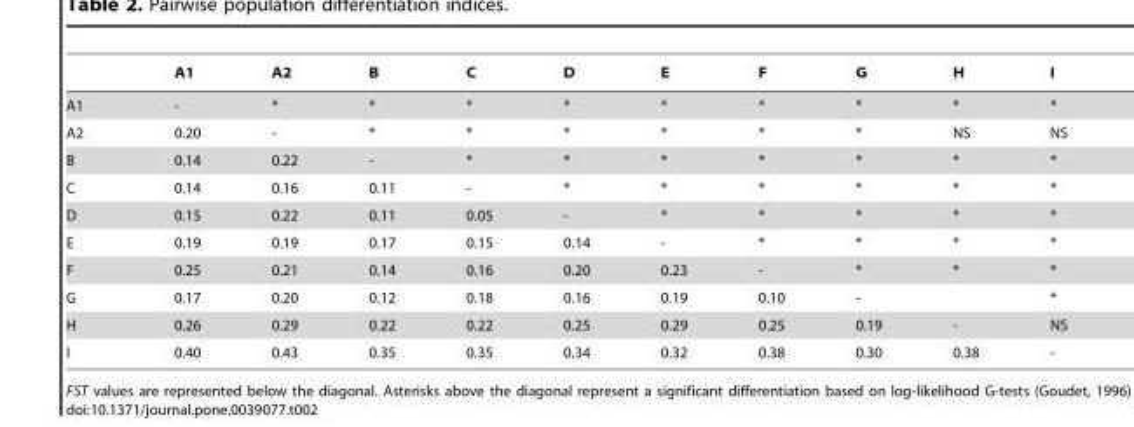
<table><thead><tr><td></td><td>A1</td><td>A2</td><td>B</td><td>C</td><td>D</td><td>E</td><td>F</td><td>G</td><td>H</td><td>I</td></tr></thead><tbody><tr><td>A1</td><td>-</td><td>*</td><td>*</td><td>*</td><td>*</td><td>*</td><td>*</td><td>*</td><td>*</td><td>*</td></tr><tr><td>A2</td><td>0.20</td><td>-</td><td>*</td><td>*</td><td>*</td><td>*</td><td>*</td><td>*</td><td>NS</td><td>NS</td></tr><tr><td>B</td><td>0.14</td><td>0.22</td><td>-</td><td>*</td><td>*</td><td>*</td><td>*</td><td>*</td><td>*</td><td>*</td></tr><tr><td>C</td><td>0.14</td><td>0.16</td><td>0.11</td><td>-</td><td>*</td><td>*</td><td>*</td><td>*</td><td>*</td><td>*</td></tr><tr><td>D</td><td>0.15</td><td>0.22</td><td>0.11</td><td>0.05</td><td>-</td><td>*</td><td>*</td><td>*</td><td>*</td><td>*</td></tr><tr><td>E</td><td>0.19</td><td>0.19</td><td>0.17</td><td>0.15</td><td>0.14</td><td>-</td><td>*</td><td>*</td><td>*</td><td>*</td></tr><tr><td>F</td><td>0.25</td><td>0.21</td><td>0.14</td><td>0.16</td><td>0.20</td><td>0.23</td><td>-</td><td>*</td><td>*</td><td>*</td></tr><tr><td>G</td><td>0.17</td><td>0.20</td><td>0.12</td><td>0.18</td><td>0.16</td><td>0.19</td><td>0.10</td><td>-</td><td></td><td>*</td></tr><tr><td>H</td><td>0.26</td><td>0.29</td><td>0.22</td><td>0.22</td><td>0.25</td><td>0.29</td><td>0.25</td><td>0.19</td><td>-</td><td>NS</td></tr><tr><td>I</td><td>0.40</td><td>0.43</td><td>0.35</td><td>0.35</td><td>0.34</td><td>0.32</td><td>0.38</td><td>0.30</td><td>0.38</td><td>-</td></tr></tbody></table>